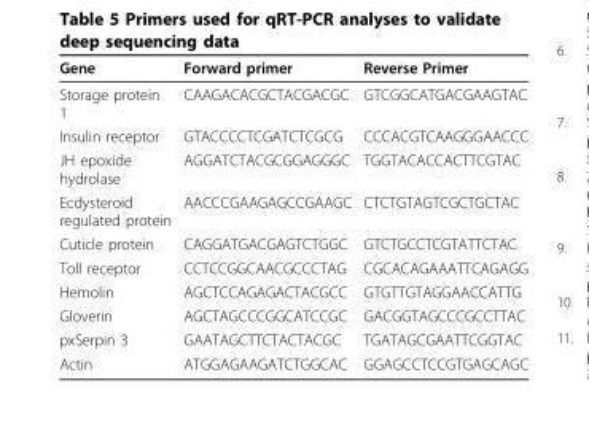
<table><thead><tr><td>Gene</td><td>Forward primer</td><td>Reverse Primer</td></tr></thead><tbody><tr><td>Storage protein 1</td><td>CAAGACACGCTACGACGC</td><td>GTCGGCATGACGAAGTAC</td></tr><tr><td>Insulin receptor</td><td>GTACCCCTCGATCTCGCG</td><td>CCCACGTCAAGGGAACCC</td></tr><tr><td>JH epoxide hydrolase</td><td>AGGATCTACGCGGAGGGC</td><td>TGGTACACCACTTCGTAC</td></tr><tr><td>Ecdysteroid regulated protein</td><td>AACCCGAAGAGCCGAAGC</td><td>CTCTGTAGTCGCTGCTAC</td></tr><tr><td>Cuticle protein</td><td>CAGGATGACGAGTCTGGC</td><td>GTCTGCCTCGTATTCTAC</td></tr><tr><td>Toll receptor</td><td>CCTCCGGCAACGCCCTAG</td><td>CGCACAGAAATTCAGAGG</td></tr><tr><td>Hemolin</td><td>AGCTCCAGAGACTACGCC</td><td>GTGTTGTAGGAACCATTG</td></tr><tr><td>Gloverin</td><td>AGCTAGCCCGGCATCCGC</td><td>GACGGTAGCCCGCCTTAC</td></tr><tr><td>pxSerpin 3</td><td>GAATAGCTTCTACTACGC</td><td>TGATAGCGAATTCGGTAC</td></tr><tr><td>Actin</td><td>ATGGAGAAGATCTGGCAC</td><td>GGAGCCTCCGTGAGCAGC</td></tr></tbody></table>